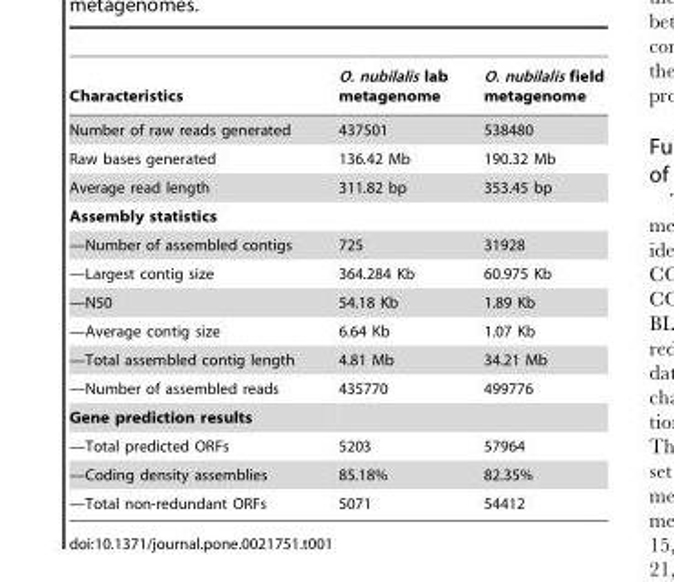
<table><thead><tr><td>Characteristics</td><td>O. nubilalis lab metagenome</td><td>O. nubilalis field metagenome</td></tr></thead><tbody><tr><td>Number of raw reads generated</td><td>437501</td><td>538480</td></tr><tr><td>Raw bases generated</td><td>136.42 Mb</td><td>190.32 Mb</td></tr><tr><td>Average read length</td><td>311.82 bp</td><td>353.45 bp</td></tr><tr><td colspan="3">Assembly statistics</td></tr><tr><td>—Number of assembled contigs</td><td>725</td><td>31928</td></tr><tr><td>—Largest contig size</td><td>364.284 Kb</td><td>60.975 Kb</td></tr><tr><td>—N50</td><td>54.18 Kb</td><td>1.89 Kb</td></tr><tr><td>—Average contig size</td><td>6.64 Kb</td><td>1.07 Kb</td></tr><tr><td>—Total assembled contig length</td><td>4.81 Mb</td><td>34.21 Mb</td></tr><tr><td>—Number of assembled reads</td><td>435770</td><td>499776</td></tr><tr><td colspan="3">Gene prediction results</td></tr><tr><td>—Total predicted ORFs</td><td>5203</td><td>57964</td></tr><tr><td>—Coding density assemblies</td><td>85.18%</td><td>82.35%</td></tr><tr><td>—Total non-redundant ORFs</td><td>5071</td><td>54412</td></tr></tbody></table>